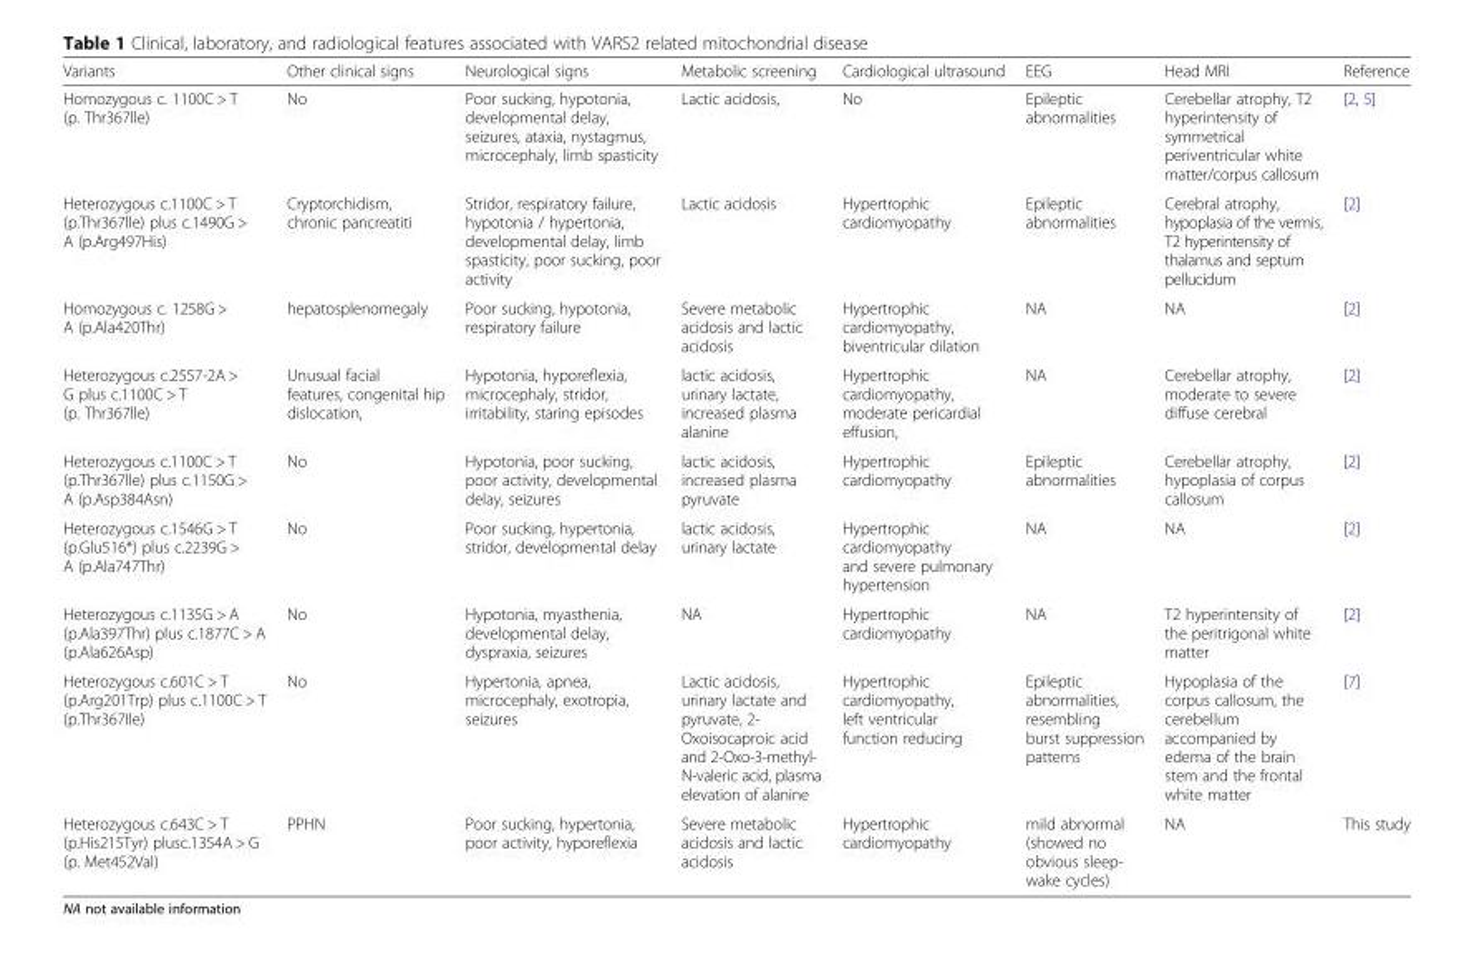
<table><thead><tr><td>Variants</td><td>Other clinical signs</td><td>Neurological signs</td><td>Metabolic screening</td><td>Cardiological ultrasound</td><td>EEG</td><td>Head MRI</td><td>Reference</td></tr></thead><tbody><tr><td>Homozygous c. 1100C &gt; T (p. Thr367lle)</td><td>No</td><td>Poor sucking, hypotonia, developmental delay, seizures, ataxia, nystagmus, microcephaly, limb spasticity</td><td>Lactic acidosis,</td><td>No</td><td>Epileptic abnormalities</td><td>Cerebellar atrophy, T2 hyperintensity of symmetrical periventricular white matter/corpus callosum</td><td>[2, 5]</td></tr><tr><td>Heterozygous c.1100C &gt; T (p.Thr367lle) plus c.1490G &gt; A (p.Arg497His)</td><td>Cryptorchidism, chronic pancreatiti</td><td>Stridor, respiratory failure, hypotonia / hypertonia, developmental delay, limb spasticity, poor sucking, poor activity</td><td>Lactic acidosis</td><td>Hypertrophic cardiomyopathy</td><td>Epileptic abnormalities</td><td>Cerebral atrophy, hypoplasia of the vermis, T2 hyperintensity of thalamus and septum pellucidum</td><td>[2]</td></tr><tr><td>Homozygous c. 1258G &gt; A (p.Ala420Thr)</td><td>hepatosplenomegaly</td><td>Poor sucking, hypotonia, respiratory failure</td><td>Severe metabolic acidosis and lactic acidosis</td><td>Hypertrophic cardiomyopathy, biventricular dilation</td><td>NA</td><td>NA</td><td>[2]</td></tr><tr><td>Heterozygous c.2557-2A &gt; G plus c.1100C &gt; T (p. Thr367lle)</td><td>Unusual facial features, congenital hip dislocation,</td><td>Hypotonia, hyporeflexia, microcephaly, stridor, irritability, staring episodes</td><td>lactic acidosis, urinary lactate, increased plasma alanine</td><td>Hypertrophic cardiomyopathy, moderate pericardial effusion,</td><td>NA</td><td>Cerebellar atrophy, moderate to severe diffuse cerebral</td><td>[2]</td></tr><tr><td>Heterozygous c.1100C &gt; T (p.Thr367lle) plus c.1150G &gt; A (p.Asp384Asn)</td><td>No</td><td>Hypotonia, poor sucking, poor activity, developmental delay, seizures</td><td>lactic acidosis, increased plasma pyruvate</td><td>Hypertrophic cardiomyopathy</td><td>Epileptic abnormalities</td><td>Cerebellar atrophy, hypoplasia of corpus callosum</td><td>[2]</td></tr><tr><td>Heterozygous c.1546G &gt; T (p.Glu516*) plus c.2239G &gt; A (p.Ala747Thr)</td><td>No</td><td>Poor sucking, hypertonia, stridor, developmental delay</td><td>lactic acidosis, urinary lactate</td><td>Hypertrophic cardiomyopathy and severe pulmonary hypertension</td><td>NA</td><td>NA</td><td>[2]</td></tr><tr><td>Heterozygous c.1135G &gt; A (p.Ala397Thr) plus c.1877C &gt; A (p.Ala626Asp)</td><td>No</td><td>Hypotonia, myasthenia, developmental delay, dyspraxia, seizures</td><td>NA</td><td>Hypertrophic cardiomyopathy</td><td>NA</td><td>T2 hyperintensity of the peritrigonal white matter</td><td>[2]</td></tr><tr><td>Heterozygous c.601C &gt; T (p.Arg201Trp) plus c.1100C &gt; T (p.Thr367Ile)</td><td>No</td><td>Hypertonia, apnea, microcephaly, exotropia, seizures</td><td>Lactic acidosis, urinary lactate and pyruvate, 2- Oxoisocaproic acid and 2-Oxo-3-methyl- N-valeric acid, plasma elevation of alanine</td><td>Hypertrophic cardiomyopathy, left ventricular function reducing</td><td>Epileptic abnormalities, resembling burst suppression patterns</td><td>Hypoplasia of the corpus callosum, the cerebellum accompanied by edema of the brain stem and the frontal white matter</td><td>[7]</td></tr><tr><td>Heterozygous c.643C &gt; T (p.His215Tyr) plusc.1354A &gt; G (p. Met452Val)</td><td>PPHN</td><td>Poor sucking, hypertonia, poor activity, hyporeflexia</td><td>Severe metabolic acidosis and lactic acidosis</td><td>Hypertrophic cardiomyopathy</td><td>mild abnormal (showed no obvious sleep- wake cycles)</td><td>NA</td><td>This study</td></tr></tbody></table>